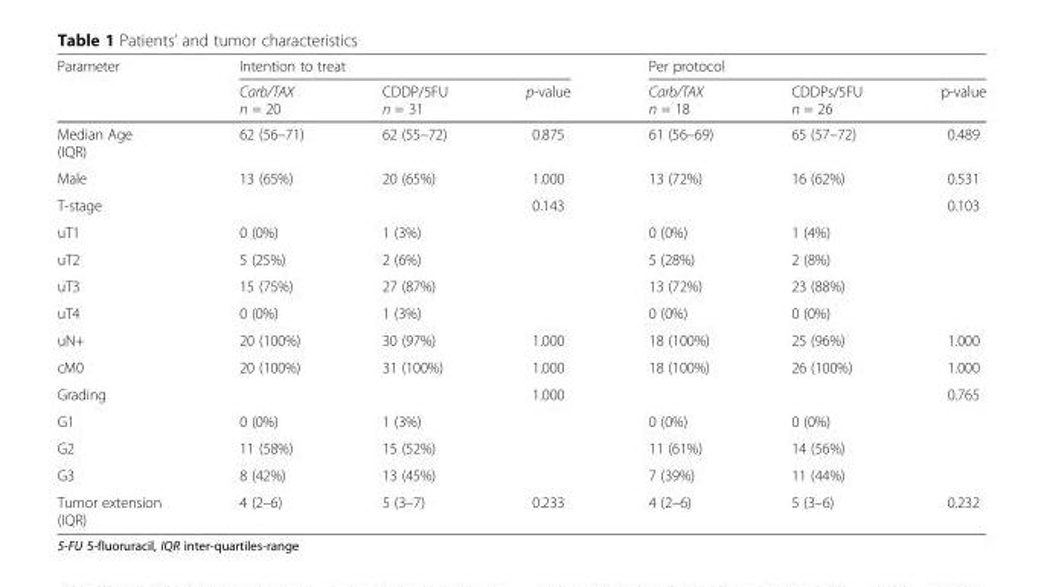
<table><thead><tr><td rowspan="2">Parameter</td><td colspan="3">Intention to treat</td><td colspan="3">Per protocol</td></tr><tr><td>Carb/TAX n = 20</td><td>CDDP/5FU n = 31</td><td>p-value</td><td>Carb/TAX n = 18</td><td>CDDPs/5FU n = 26</td><td>p-value</td></tr></thead><tbody><tr><td>Median Age (IQR)</td><td>62 (56–71)</td><td>62 (55–72)</td><td>0.875</td><td>61 (56–69)</td><td>65 (57–72)</td><td>0.489</td></tr><tr><td>Male</td><td>13 (65%)</td><td>20 (65%)</td><td>1.000</td><td>13 (72%)</td><td>16 (62%)</td><td>0.531</td></tr><tr><td>T-stage</td><td></td><td></td><td>0.143</td><td></td><td></td><td>0.103</td></tr><tr><td>uT1</td><td>0 (0%)</td><td>1 (3%)</td><td></td><td>0 (0%)</td><td>1 (4%)</td><td></td></tr><tr><td>uT2</td><td>5 (25%)</td><td>2 (6%)</td><td></td><td>5 (28%)</td><td>2 (8%)</td><td></td></tr><tr><td>uT3</td><td>15 (75%)</td><td>27 (87%)</td><td></td><td>13 (72%)</td><td>23 (88%)</td><td></td></tr><tr><td>uT4</td><td>0 (0%)</td><td>1 (3%)</td><td></td><td>0 (0%)</td><td>0 (0%)</td><td></td></tr><tr><td>uN+</td><td>20 (100%)</td><td>30 (97%)</td><td>1.000</td><td>18 (100%)</td><td>25 (96%)</td><td>1.000</td></tr><tr><td>cM0</td><td>20 (100%)</td><td>31 (100%)</td><td>1.000</td><td>18 (100%)</td><td>26 (100%)</td><td>1.000</td></tr><tr><td>Grading</td><td></td><td></td><td>1.000</td><td></td><td></td><td>0.765</td></tr><tr><td>G1</td><td>0 (0%)</td><td>1 (3%)</td><td></td><td>0 (0%)</td><td>0 (0%)</td><td></td></tr><tr><td>G2</td><td>11 (58%)</td><td>15 (52%)</td><td></td><td>11 (61%)</td><td>14 (56%)</td><td></td></tr><tr><td>G3</td><td>8 (42%)</td><td>13 (45%)</td><td></td><td>7 (39%)</td><td>11 (44%)</td><td></td></tr><tr><td>Tumor extension (IQR)</td><td>4 (2–6)</td><td>5 (3–7)</td><td>0.233</td><td>4 (2–6)</td><td>5 (3–6)</td><td>0.232</td></tr></tbody></table>